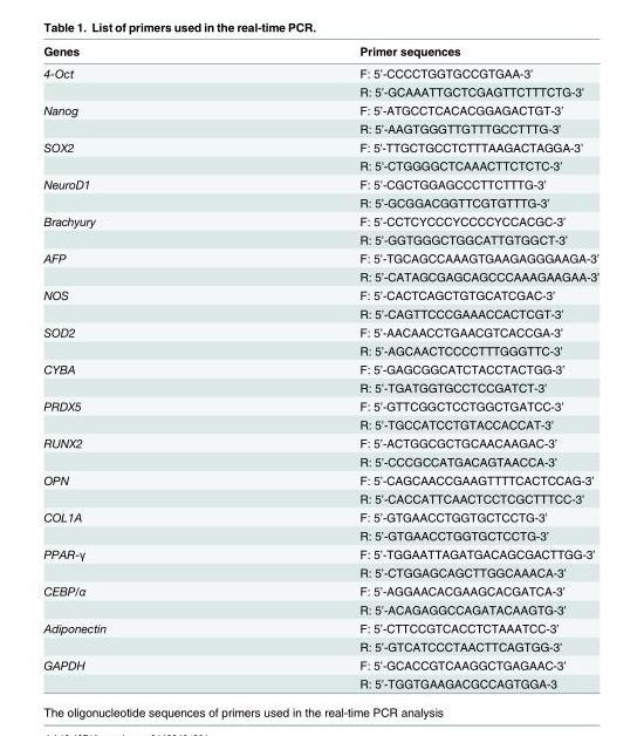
<table><thead><tr><td>Genes</td><td>Primer sequences</td></tr></thead><tbody><tr><td rowspan="2">4-Oct</td><td>F: 5’-CCCCTGGTGCCGTGAA-3’</td></tr><tr><td>R: 5’-GCAAATTGCTCGAGTTCTTTCTG-3’</td></tr><tr><td rowspan="2">Nanog</td><td>F: 5’-ATGCCTCACACGGAGACTGT-3’</td></tr><tr><td>R: 5’-AAGTGGGTTGTTTGCCTTTG-3’</td></tr><tr><td rowspan="2">SOX2</td><td>F: 5&#x27;-TTGCTGCCTCTTTAAGACTAGGA-3’</td></tr><tr><td>R: 5&#x27;-CTGGGGCTCAAACTTCTCTC-3’</td></tr><tr><td rowspan="2">NeuroD1</td><td>F: 5’-CGCTGGAGCCCTTCTTTG-3’</td></tr><tr><td>R: 5’-GCGGACGGTTCGTGTTTG-3’</td></tr><tr><td rowspan="2">Brachyury</td><td>F: 5’-CCTCYCCCYCCCCYCCACGC-3’</td></tr><tr><td>R: 5’-GGTGGGCTGGCATTGTGGCT-3’</td></tr><tr><td rowspan="2">AFP</td><td>F: 5’-TGCAGCCAAAGTGAAGAGGGAAGA-3’</td></tr><tr><td>R: 5’-CATAGCGAGCAGCCCAAAGAAGAA-3’</td></tr><tr><td rowspan="2">NOS</td><td>F: 5’-CACTCAGCTGTGCATCGAC-3’</td></tr><tr><td>R: 5’-CAGTTCCCGAAACCACTCGT-3’</td></tr><tr><td rowspan="2">SOD2</td><td>F: 5’-AACAACCTGAACGTCACCGA-3’</td></tr><tr><td>R: 5’-AGCAACTCCCCTTTGGGTTC-3’</td></tr><tr><td rowspan="2">CYBA</td><td>F: 5’-GAGCGGCATCTACCTACTGG-3’</td></tr><tr><td>R: 5’-TGATGGTGCCTCCGATCT-3’</td></tr><tr><td rowspan="2">PRDX5</td><td>F: 5’-GTTCGGCTCCTGGCTGATCC-3’</td></tr><tr><td>R: 5’-TGCCATCCTGTACCACCAT-3’</td></tr><tr><td rowspan="2">RUNX2</td><td>F: 5’-ACTGGCGCTGCAACAAGAC-3’</td></tr><tr><td>R: 5’-CCCGCCATGACAGTAACCA-3’</td></tr><tr><td rowspan="2">OPN</td><td>F: 5’-CAGCAACCGAAGTTTTCACTCCAG-3’</td></tr><tr><td>R: 5’-CACCATTCAACTCCTCGCTTTCC-3’</td></tr><tr><td rowspan="2">COL1A</td><td>F: 5’-GTGAACCTGGTGCTCCTG-3’</td></tr><tr><td>R: 5’-GTGAACCTGGTGCTCCTG-3’</td></tr><tr><td rowspan="2">PPAR-γ</td><td>F: 5’-TGGAATTAGATGACAGCGACTTGG-3’</td></tr><tr><td>R: 5’-CTGGAGCAGCTTGGCAAACA-3’</td></tr><tr><td rowspan="2">CEBP/α</td><td>F: 5’-AGGAACACGAAGCACGATCA-3’</td></tr><tr><td>R: 5’-ACAGAGGCCAGATACAAGTG-3’</td></tr><tr><td rowspan="2">Adiponectin</td><td>F: 5’-CTTCCGTCACCTCTAAATCC-3’</td></tr><tr><td>R: 5’-GTCATCCCTAACTTCAGTGG-3’</td></tr><tr><td rowspan="2">GAPDH</td><td>F: 5’-GCACCGTCAAGGCTGAGAAC-3’</td></tr><tr><td>R: 5’-TGGTGAAGACGCCAGTGGA-3</td></tr></tbody></table>